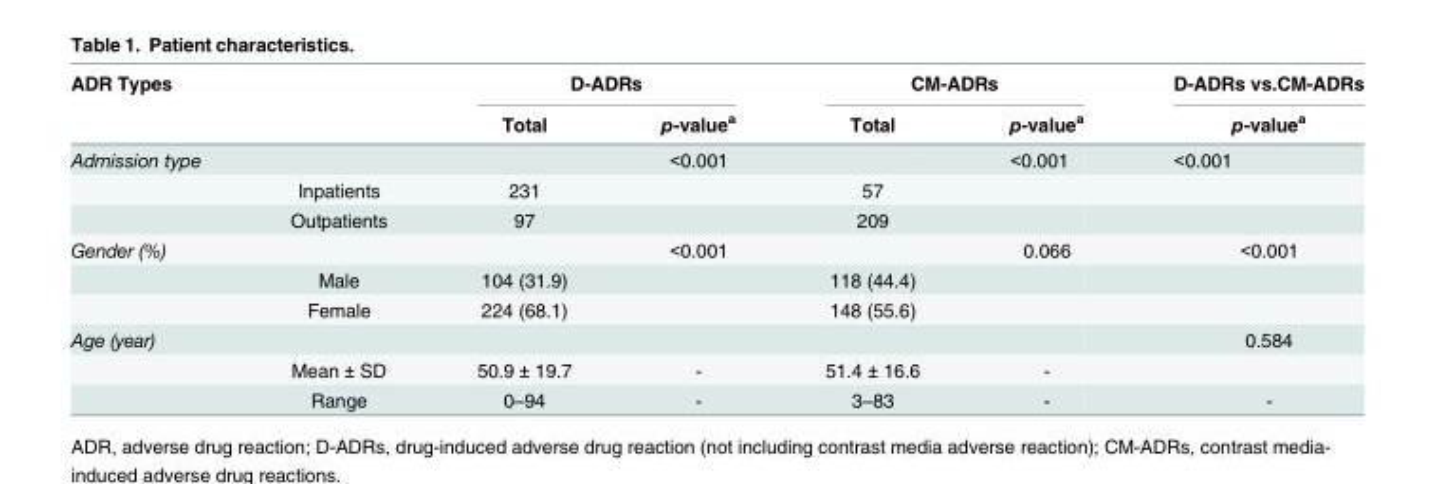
<table><thead><tr><td rowspan="2" colspan="2">ADR Types</td><td colspan="2">D-ADRs</td><td colspan="2">CM-ADRs</td><td rowspan="3">D-ADRs vs.CM-ADRs p-value<sup>a</sup> &lt;0.001</td></tr><tr><td rowspan="2">Total</td><td rowspan="2">p-value<sup>a</sup> &lt;0.001</td><td rowspan="2">Total</td><td rowspan="2">p-value<sup>a</sup> &lt;0.001</td></tr><tr><td>Admission type</td><td></td></tr></thead><tbody><tr><td></td><td>Inpatients</td><td>231</td><td></td><td>57</td><td></td><td></td></tr><tr><td></td><td>Outpatients</td><td>97</td><td></td><td>209</td><td></td><td></td></tr><tr><td rowspan="3">Gender (%)</td><td></td><td></td><td>&lt;0.001</td><td></td><td>0.066</td><td>&lt;0.001</td></tr><tr><td>Male</td><td>104 (31.9)</td><td></td><td>118 (44.4)</td><td></td><td></td></tr><tr><td>Female</td><td>224 (68.1)</td><td></td><td>148 (55.6)</td><td></td><td></td></tr><tr><td rowspan="3">Age (year)</td><td></td><td></td><td></td><td></td><td></td><td>0.584</td></tr><tr><td>Mean ± SD</td><td>50.9 ± 19.7</td><td>-</td><td>51.4 ± 16.6</td><td>-</td><td></td></tr><tr><td>Range</td><td>0–94</td><td>-</td><td>3–83</td><td>-</td><td>-</td></tr></tbody></table>